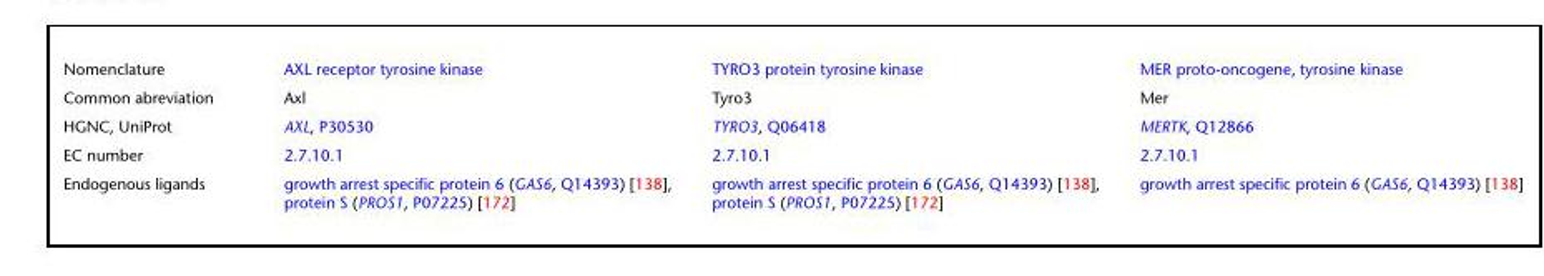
<table><tbody><tr><td>Nomenclature</td><td>AXL receptor tyrosine kinase</td><td>TYRO3 protein tyrosine kinase</td><td>MER proto-oncogene, tyrosine kinase</td></tr><tr><td>Common abreviation</td><td>Axl</td><td>Tyro3</td><td>Mer</td></tr><tr><td>HGNC, UniProt</td><td>AXL, P30530</td><td>TYRO3, Q06418</td><td>MERTK, Q12866</td></tr><tr><td>EC number</td><td>2.7.10.1</td><td>2.7.10.1</td><td>2.7.10.1</td></tr><tr><td>Endogenous ligands</td><td>growth arrest specific protein 6 (GAS6, Q14393) [138], protein S (PROS1, P07225) [172]</td><td>growth arrest specific protein 6 (GAS6, Q14393) [138], protein S (PROS1, P07225) [172]</td><td>growth arrest specific protein 6 (GAS6, Q14393)</td></tr></tbody></table>